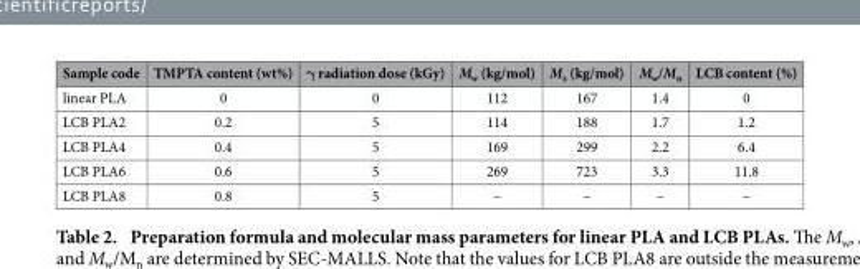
<table><thead><tr><td>Sample code</td><td>TMPTA content (wt%)</td><td>γ radiation dose (kGy)</td><td>M<sub>w</sub> (kg/mol)</td><td>M<sub>z</sub> (kg/mol)</td><td>M<sub>w</sub>/M<sub>n</sub></td><td>LCB content (%)</td></tr></thead><tbody><tr><td>linear PLA</td><td>0</td><td>0</td><td>112</td><td>167</td><td>1.4</td><td>0</td></tr><tr><td>LCB PLA2</td><td>0.2</td><td>5</td><td>114</td><td>188</td><td>1.7</td><td>1.2</td></tr><tr><td>LCB PLA4</td><td>0.4</td><td>5</td><td>169</td><td>299</td><td>2.2</td><td>6.4</td></tr><tr><td>LCB PLA6</td><td>0.6</td><td>5</td><td>269</td><td>723</td><td>3.3</td><td>11.8</td></tr><tr><td>LCB PLA8</td><td>0.8</td><td>5</td><td>–</td><td>–</td><td>–</td><td>–</td></tr></tbody></table>